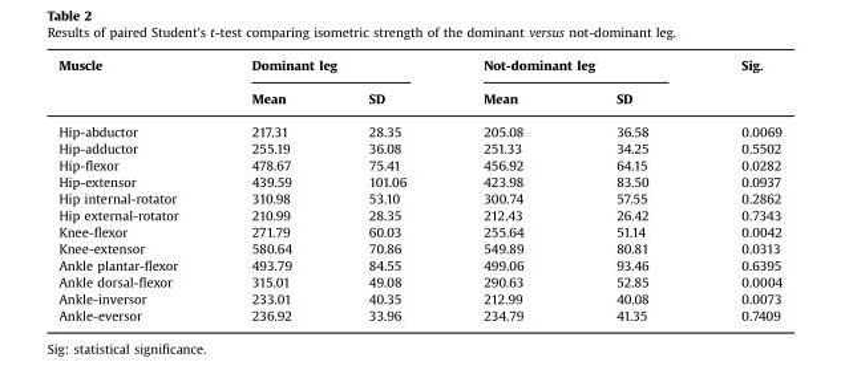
<table><thead><tr><td rowspan="2">Muscle</td><td colspan="2">Dominant leg</td><td colspan="2">Not-dominant leg</td><td rowspan="2">Sig.</td></tr><tr><td>Mean</td><td>SD</td><td>Mean</td><td>SD</td></tr></thead><tbody><tr><td>Hip-abductor</td><td>217.31</td><td>28.35</td><td>205.08</td><td>36.58</td><td>0.0069</td></tr><tr><td>Hip-adductor</td><td>255.19</td><td>36.08</td><td>251.33</td><td>34.25</td><td>0.5502</td></tr><tr><td>Hip-flexor</td><td>478.67</td><td>75.41</td><td>456.92</td><td>64.15</td><td>0.0282</td></tr><tr><td>Hip-extensor</td><td>439.59</td><td>101.06</td><td>423.98</td><td>83.50</td><td>0.0937</td></tr><tr><td>Hip internal-rotator</td><td>310.98</td><td>53.10</td><td>300.74</td><td>57.55</td><td>0.2862</td></tr><tr><td>Hip external-rotator</td><td>210.99</td><td>28.35</td><td>212.43</td><td>26.42</td><td>0.7343</td></tr><tr><td>Knee-flexor</td><td>271.79</td><td>60.03</td><td>255.64</td><td>51.14</td><td>0.0042</td></tr><tr><td>Knee-extensor</td><td>580.64</td><td>70.86</td><td>549.89</td><td>80.81</td><td>0.0313</td></tr><tr><td>Ankle plantar-flexor</td><td>493.79</td><td>84.55</td><td>499.06</td><td>93.46</td><td>0.6395</td></tr><tr><td>Ankle dorsal-flexor</td><td>315.01</td><td>49.08</td><td>290.63</td><td>52.85</td><td>0.0004</td></tr><tr><td>Ankle-inversor</td><td>233.01</td><td>40.35</td><td>212.99</td><td>40.08</td><td>0.0073</td></tr><tr><td>Ankle-eversor</td><td>236.92</td><td>33.96</td><td>234.79</td><td>41.35</td><td>0.7409</td></tr></tbody></table>